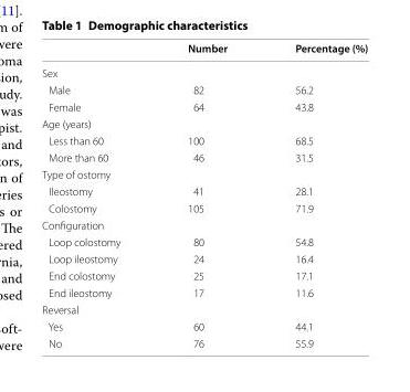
<table><thead><tr><td></td><td>Number</td><td>Percentage (%)</td></tr></thead><tbody><tr><td colspan="3">Sex</td></tr><tr><td>Male</td><td>82</td><td>56.2</td></tr><tr><td>Female</td><td>64</td><td>43.8</td></tr><tr><td colspan="3">Age (years)</td></tr><tr><td>Less than 60</td><td>100</td><td>68.5</td></tr><tr><td>More than 60</td><td>46</td><td>31.5</td></tr><tr><td colspan="3">Type of ostomy</td></tr><tr><td>Ileostomy</td><td>41</td><td>28.1</td></tr><tr><td>Colostomy</td><td>105</td><td>71.9</td></tr><tr><td colspan="3">Configuration</td></tr><tr><td>Loop colostomy</td><td>80</td><td>54.8</td></tr><tr><td>Loop ileostomy</td><td>24</td><td>16.4</td></tr><tr><td>End colostomy</td><td>25</td><td>17.1</td></tr><tr><td>End ileostomy</td><td>17</td><td>11.6</td></tr><tr><td colspan="3">Reversal</td></tr><tr><td>Yes</td><td>60</td><td>44.1</td></tr><tr><td>No</td><td>76</td><td>55.9</td></tr></tbody></table>